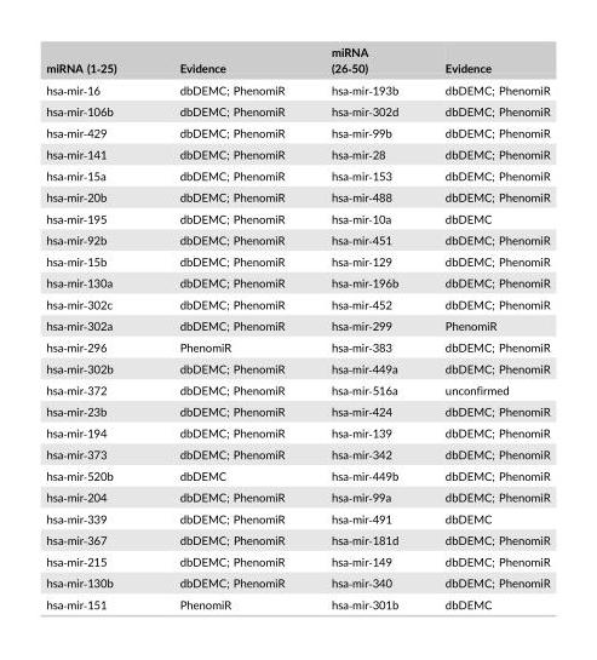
<table><thead><tr><td>miRNA (1‐25)</td><td>Evidence</td><td>miRNA (26‐50)</td><td>Evidence</td></tr></thead><tbody><tr><td>hsa‐mir‐16</td><td>dbDEMC; PhenomiR</td><td>hsa‐mir‐193b</td><td>dbDEMC; PhenomiR</td></tr><tr><td>hsa‐mir‐106b</td><td>dbDEMC; PhenomiR</td><td>hsa‐mir‐302d</td><td>dbDEMC; PhenomiR</td></tr><tr><td>hsa‐mir‐429</td><td>dbDEMC; PhenomiR</td><td>hsa‐mir‐99b</td><td>dbDEMC; PhenomiR</td></tr><tr><td>hsa‐mir‐141</td><td>dbDEMC; PhenomiR</td><td>hsa‐mir‐28</td><td>dbDEMC; PhenomiR</td></tr><tr><td>hsa‐mir‐15a</td><td>dbDEMC; PhenomiR</td><td>hsa‐mir‐153</td><td>dbDEMC; PhenomiR</td></tr><tr><td>hsa‐mir‐20b</td><td>dbDEMC; PhenomiR</td><td>hsa‐mir‐488</td><td>dbDEMC; PhenomiR</td></tr><tr><td>hsa‐mir‐195</td><td>dbDEMC; PhenomiR</td><td>hsa‐mir‐10a</td><td>dbDEMC</td></tr><tr><td>hsa‐mir‐92b</td><td>dbDEMC; PhenomiR</td><td>hsa‐mir‐451</td><td>dbDEMC; PhenomiR</td></tr><tr><td>hsa‐mir‐15b</td><td>dbDEMC; PhenomiR</td><td>hsa‐mir‐129</td><td>dbDEMC; PhenomiR</td></tr><tr><td>hsa‐mir‐130a</td><td>dbDEMC; PhenomiR</td><td>hsa‐mir‐196b</td><td>dbDEMC; PhenomiR</td></tr><tr><td>hsa‐mir‐302c</td><td>dbDEMC; PhenomiR</td><td>hsa‐mir‐452</td><td>dbDEMC; PhenomiR</td></tr><tr><td>hsa‐mir‐302a</td><td>dbDEMC; PhenomiR</td><td>hsa‐mir‐299</td><td>PhenomiR</td></tr><tr><td>hsa‐mir‐296</td><td>PhenomiR</td><td>hsa‐mir‐383</td><td>dbDEMC; PhenomiR</td></tr><tr><td>hsa‐mir‐302b</td><td>dbDEMC; PhenomiR</td><td>hsa‐mir‐449a</td><td>dbDEMC; PhenomiR</td></tr><tr><td>hsa‐mir‐372</td><td>dbDEMC; PhenomiR</td><td>hsa‐mir‐516a</td><td>unconfirmed</td></tr><tr><td>hsa‐mir‐23b</td><td>dbDEMC; PhenomiR</td><td>hsa‐mir‐424</td><td>dbDEMC; PhenomiR</td></tr><tr><td>hsa‐mir‐194</td><td>dbDEMC; PhenomiR</td><td>hsa‐mir‐139</td><td>dbDEMC; PhenomiR</td></tr><tr><td>hsa‐mir‐373</td><td>dbDEMC; PhenomiR</td><td>hsa‐mir‐342</td><td>dbDEMC; PhenomiR</td></tr><tr><td>hsa‐mir‐520b</td><td>dbDEMC</td><td>hsa‐mir‐449b</td><td>dbDEMC; PhenomiR</td></tr><tr><td>hsa‐mir‐204</td><td>dbDEMC; PhenomiR</td><td>hsa‐mir‐99a</td><td>dbDEMC; PhenomiR</td></tr><tr><td>hsa‐mir‐339</td><td>dbDEMC; PhenomiR</td><td>hsa‐mir‐491</td><td>dbDEMC</td></tr><tr><td>hsa‐mir‐367</td><td>dbDEMC; PhenomiR</td><td>hsa‐mir‐181d</td><td>dbDEMC; PhenomiR</td></tr><tr><td>hsa‐mir‐215</td><td>dbDEMC; PhenomiR</td><td>hsa‐mir‐149</td><td>dbDEMC; PhenomiR</td></tr><tr><td>hsa‐mir‐130b</td><td>dbDEMC; PhenomiR</td><td>hsa‐mir‐340</td><td>dbDEMC; PhenomiR</td></tr><tr><td>hsa‐mir‐151</td><td>PhenomiR</td><td>hsa‐mir‐301b</td><td>dbDEMC</td></tr></tbody></table>